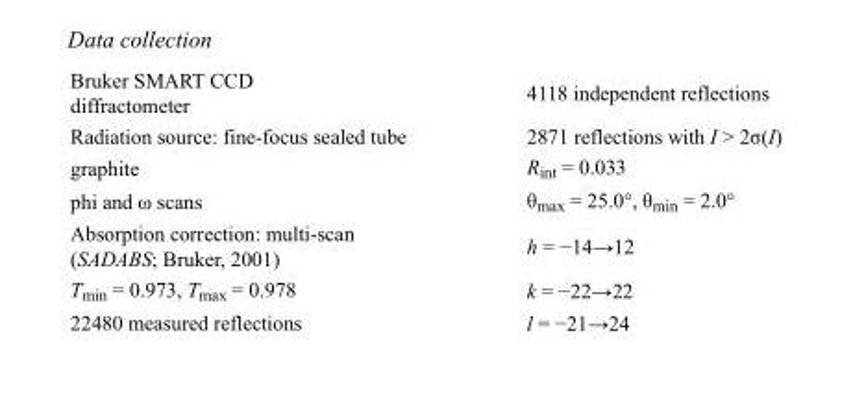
<table><tbody><tr><td>Bruker SMART CCD diffractometer</td><td>4118 independent reflections</td></tr><tr><td>Radiation source: fine-focus sealed tube</td><td>2871 reflections with I &gt; 2σ(I)</td></tr><tr><td>graphite</td><td>R<sub>int</sub> = 0.033</td></tr><tr><td>phi and ω scans</td><td>θ<sub>max</sub> = 25.0°, θ<sub>min</sub> = 2.0°</td></tr><tr><td>Absorption correction: multi-scan (SADABS; Bruker, 2001)</td><td>h = −14→12</td></tr><tr><td>T<sub>min</sub> = 0.973, T<sub>max</sub> = 0.978</td><td>k = −22→22</td></tr><tr><td>22480 measured reflections</td><td>l = −21→24</td></tr></tbody></table>